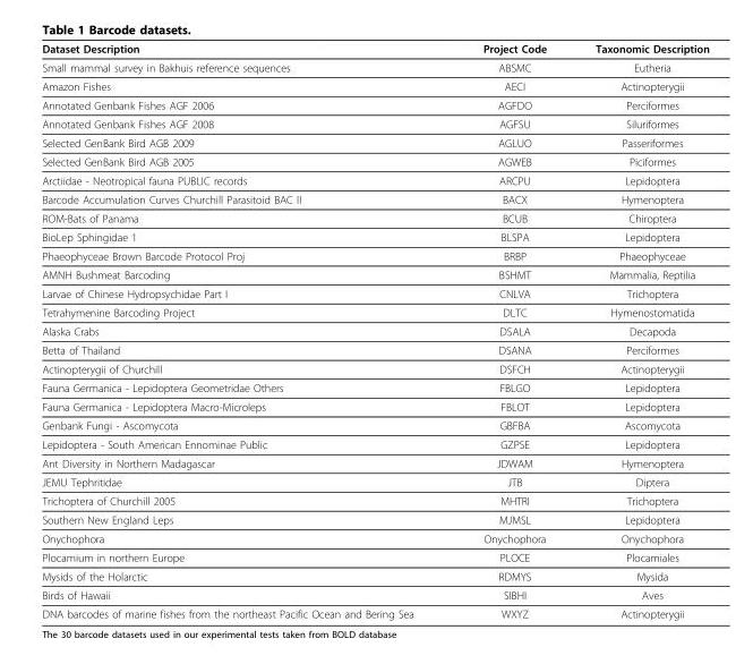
<table><thead><tr><td>Dataset Description</td><td>Project Code</td><td>Taxonomic Description</td></tr></thead><tbody><tr><td>Small mammal survey in Bakhuis reference sequences</td><td>ABSMC</td><td>Eutheria</td></tr><tr><td>Amazon Fishes</td><td>AECI</td><td>Actinopterygii</td></tr><tr><td>Annotated Genbank Fishes AGF 2006</td><td>AGFDO</td><td>Perciformes</td></tr><tr><td>Annotated Genbank Fishes AGF 2008</td><td>AGFSU</td><td>Siluriformes</td></tr><tr><td>Selected GenBank Bird AGB 2009</td><td>AGLUO</td><td>Passeriformes</td></tr><tr><td>Selected GenBank Bird AGB 2005</td><td>AGWEB</td><td>Piciformes</td></tr><tr><td>Arctiidae - Neotropical fauna PUBLIC records</td><td>ARCPU</td><td>Lepidoptera</td></tr><tr><td>Barcode Accumulation Curves Churchill Parasitoid BAC II</td><td>BACX</td><td>Hymenoptera</td></tr><tr><td>ROM-Bats of Panama</td><td>BCUB</td><td>Chiroptera</td></tr><tr><td>BioLep Sphingidae 1</td><td>BLSPA</td><td>Lepidoptera</td></tr><tr><td>Phaeophyceae Brown Barcode Protocol Proj</td><td>BRBP</td><td>Phaeophyceae</td></tr><tr><td>AMNH Bushmeat Barcoding</td><td>BSHMT</td><td>Mammalia, Reptilia</td></tr><tr><td>Larvae of Chinese Hydropsychidae Part I</td><td>CNLVA</td><td>Trichoptera</td></tr><tr><td>Tetrahymenine Barcoding Project</td><td>DLTC</td><td>Hymenostomatida</td></tr><tr><td>Alaska Crabs</td><td>DSALA</td><td>Decapoda</td></tr><tr><td>Betta of Thailand</td><td>DSANA</td><td>Perciformes</td></tr><tr><td>Actinopterygii of Churchill</td><td>DSFCH</td><td>Actinopterygii</td></tr><tr><td>Fauna Germanica - Lepidoptera Geometridae Others</td><td>FBLGO</td><td>Lepidoptera</td></tr><tr><td>Fauna Germanica - Lepidoptera Macro-Microleps</td><td>FBLOT</td><td>Lepidoptera</td></tr><tr><td>Genbank Fungi - Ascomycota</td><td>GBFBA</td><td>Ascomycota</td></tr><tr><td>Lepidoptera - South American Ennominae Public</td><td>GZPSE</td><td>Lepidoptera</td></tr><tr><td>Ant Diversity in Northern Madagascar</td><td>JDWAM</td><td>Hymenoptera</td></tr><tr><td>JEMU Tephritidae</td><td>JTB</td><td>Diptera</td></tr><tr><td>Trichoptera of Churchill 2005</td><td>MHTRI</td><td>Trichoptera</td></tr><tr><td>Southern New England Leps</td><td>MJMSL</td><td>Lepidoptera</td></tr><tr><td>Onychophora</td><td>Onychophora</td><td>Onychophora</td></tr><tr><td>Plocamium in northern Europe</td><td>PLOCE</td><td>Plocamiales</td></tr><tr><td>Mysids of the Holarctic</td><td>RDMYS</td><td>Mysida</td></tr><tr><td>Birds of Hawaii</td><td>SIBHI</td><td>Aves</td></tr><tr><td>DNA barcodes of marine fishes from the northeast Pacific Ocean and Bering Sea</td><td>WXYZ</td><td>Actinopterygii</td></tr></tbody></table>